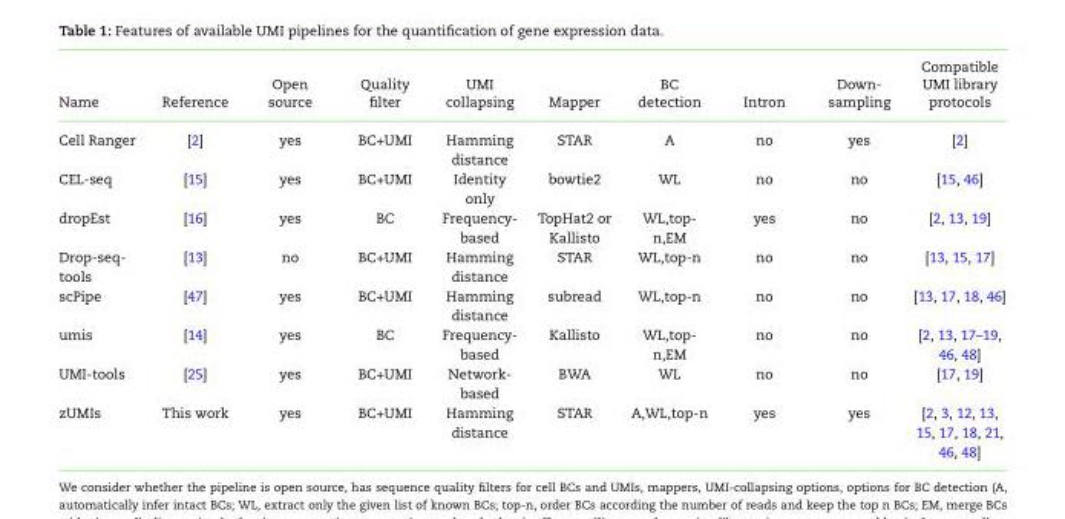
<table><thead><tr><td>Name</td><td>Reference</td><td>Open source</td><td>Quality filter</td><td>UMI collapsing</td><td>Mapper</td><td>BC detection</td><td>Intron</td><td>Down- sampling</td><td>Compatible UMI library protocols</td></tr></thead><tbody><tr><td>Cell Ranger</td><td>[2]</td><td>yes</td><td>BC+UMI</td><td>Hamming distance</td><td>STAR</td><td>A</td><td>no</td><td>yes</td><td>[2]</td></tr><tr><td>CEL-seq</td><td>[15]</td><td>yes</td><td>BC+UMI</td><td>Identity only</td><td>bowtie2</td><td>WL</td><td>no</td><td>no</td><td>[15, 46]</td></tr><tr><td>dropEst</td><td>[16]</td><td>yes</td><td>BC</td><td>Frequency- based</td><td>TopHat2 or Kallisto</td><td>WL,top- n,EM</td><td>yes</td><td>no</td><td>[2, 13, 19]</td></tr><tr><td>Drop-seq- tools</td><td>[13]</td><td>no</td><td>BC+UMI</td><td>Hamming distance</td><td>STAR</td><td>WL,top-n</td><td>no</td><td>no</td><td>[13, 15, 17]</td></tr><tr><td>scPipe</td><td>[47]</td><td>yes</td><td>BC+UMI</td><td>Hamming distance</td><td>subread</td><td>WL,top-n</td><td>no</td><td>no</td><td>[13, 17, 18, 46]</td></tr><tr><td>umis</td><td>[14]</td><td>yes</td><td>BC</td><td>Frequency- based</td><td>Kallisto</td><td>WL,top- n,EM</td><td>no</td><td>no</td><td>[2, 13, 17–19, 46, 48]</td></tr><tr><td>UMI-tools</td><td>[25]</td><td>yes</td><td>BC+UMI</td><td>Network- based</td><td>BWA</td><td>WL</td><td>no</td><td>no</td><td>[17, 19]</td></tr><tr><td>zUMIs</td><td>This work</td><td>yes</td><td>BC+UMI</td><td>Hamming distance</td><td>STAR</td><td>A,WL,top-n</td><td>yes</td><td>yes</td><td>[2, 3, 12, 13, 15, 17, 18, 21, 46, 48]</td></tr></tbody></table>